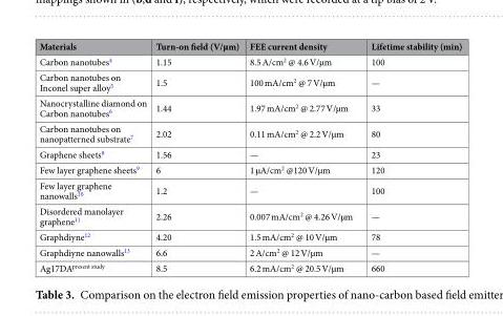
<table><thead><tr><td>Materials</td><td>Turn-on field (V/µm)</td><td>FEE current density</td><td>Lifetime stability (min)</td></tr></thead><tbody><tr><td>Carbon nanotubes<sup>4</sup></td><td>1.15</td><td>8.5 A/cm<sup>2</sup> @ 4.6 V/µm</td><td>100</td></tr><tr><td>Carbon nanotubes on Inconel super alloy<sup>5</sup></td><td>1.5</td><td>100 mA/cm<sup>2</sup> @ 7 V/µm</td><td>—</td></tr><tr><td>Nanocrystalline diamond on Carbon nanotubes<sup>6</sup></td><td>1.44</td><td>1.97 mA/cm<sup>2</sup> @ 2.77 V/µm</td><td>33</td></tr><tr><td>Carbon nanotubes on nanopatterned substrate<sup>7</sup></td><td>2.02</td><td>0.11 mA/cm<sup>2</sup> @ 2.2 V/µm</td><td>80</td></tr><tr><td>Graphene sheets<sup>8</sup></td><td>1.56</td><td>—</td><td>23</td></tr><tr><td>Few layer graphene sheets<sup>9</sup></td><td>6</td><td>1 µA/cm<sup>2</sup> @120 V/µm</td><td>120</td></tr><tr><td>Few layer graphene nanowalls<sup>10</sup></td><td>1.2</td><td>—</td><td>100</td></tr><tr><td>Disordered manolayer graphene<sup>11</sup></td><td>2.26</td><td>0.007 mA/cm<sup>2</sup> @ 4.26 V/µm</td><td>—</td></tr><tr><td>Graphdiyne<sup>12</sup></td><td>4.20</td><td>1.5 mA/cm<sup>2</sup> @ 10 V/µm</td><td>78</td></tr><tr><td>Graphdiyne nanowalls<sup>13</sup></td><td>6.6</td><td>2 A/cm<sup>2</sup> @ 12 V/µm</td><td>—</td></tr><tr><td>Ag17DA<sup>present study</sup></td><td>8.5</td><td>6.2 mA/cm<sup>2</sup> @ 20.5 V/µm</td><td>660</td></tr></tbody></table>